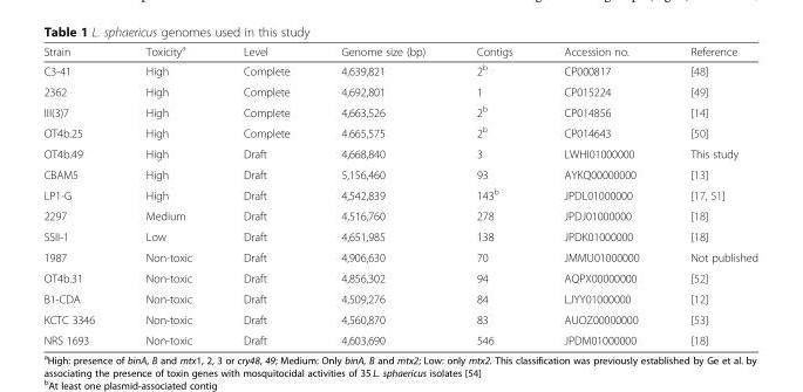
<table><thead><tr><td>Strain</td><td>Toxicity<sup>a</sup></td><td>Level</td><td>Genome size (bp)</td><td>Contigs</td><td>Accession no.</td><td>Reference</td></tr></thead><tbody><tr><td>C3-41</td><td>High</td><td>Complete</td><td>4,639,821</td><td>2<sup>b</sup></td><td>CP000817</td><td>[48]</td></tr><tr><td>2362</td><td>High</td><td>Complete</td><td>4,692,801</td><td>1</td><td>CP015224</td><td>[49]</td></tr><tr><td>III(3)7</td><td>High</td><td>Complete</td><td>4,663,526</td><td>2<sup>b</sup></td><td>CP014856</td><td>[14]</td></tr><tr><td>OT4b.25</td><td>High</td><td>Complete</td><td>4.665,575</td><td>2<sup>b</sup></td><td>CP014643</td><td>[50]</td></tr><tr><td>OT4b.49</td><td>High</td><td>Draft</td><td>4,668,840</td><td>3</td><td>LWHI01000000</td><td>This study</td></tr><tr><td>CBAM5</td><td>High</td><td>Draft</td><td>5,156,460</td><td>93</td><td>AYKQ00000000</td><td>[13]</td></tr><tr><td>LP1-G</td><td>High</td><td>Draft</td><td>4,542,839</td><td>143<sup>b</sup></td><td>JPDL01000000</td><td>[17, 51]</td></tr><tr><td>2297</td><td>Medium</td><td>Draft</td><td>4,516,760</td><td>278</td><td>JPDJ01000000</td><td>[18]</td></tr><tr><td>SSII-1</td><td>Low</td><td>Draft</td><td>4,651,985</td><td>138</td><td>JPDK01000000</td><td>[18]</td></tr><tr><td>1987</td><td>Non-toxic</td><td>Draft</td><td>4,906,630</td><td>70</td><td>JMMU01000000</td><td>Not published</td></tr><tr><td>OT4b.31</td><td>Non-toxic</td><td>Draft</td><td>4,856,302</td><td>94</td><td>AQPX00000000</td><td>[52]</td></tr><tr><td>B1-CDA</td><td>Non-toxic</td><td>Draft</td><td>4,509,276</td><td>84</td><td>LJYY01000000</td><td>[12]</td></tr><tr><td>KCTC 3346</td><td>Non-toxic</td><td>Draft</td><td>4,560,870</td><td>83</td><td>AUOZ00000000</td><td>[53]</td></tr><tr><td>NRS 1693</td><td>Non-toxic</td><td>Draft</td><td>4,603,690</td><td>546</td><td>JPDM01000000</td><td>[18]</td></tr></tbody></table>